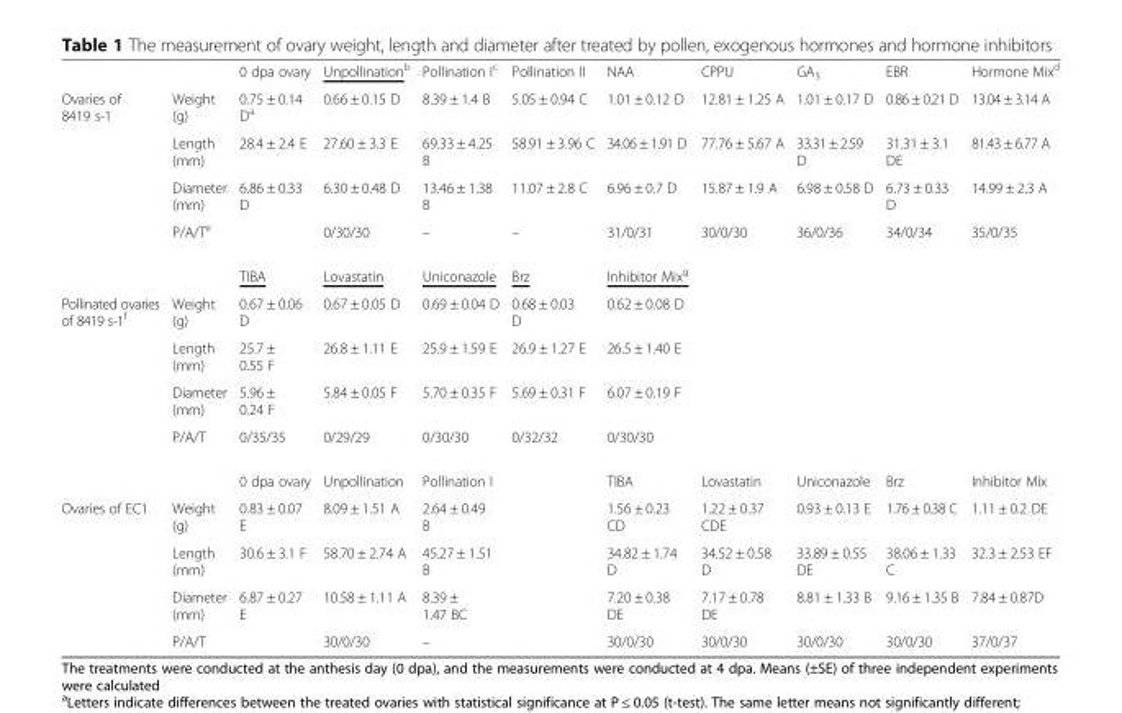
<table><thead><tr><td></td><td></td><td>0 dpa ovary</td><td>Unpollination<sup>b</sup></td><td>Pollination I<sup>c</sup></td><td>Pollination II</td><td>NAA</td><td>CPPU</td><td>GA<sub>3</sub></td><td>EBR</td><td>Hormone Mix<sup>d</sup></td></tr></thead><tbody><tr><td rowspan="5">Ovaries of 8419 s-1</td><td>Weight (g)</td><td>0.75 ± 0.14 D<sup>a</sup></td><td>0.66 ± 0.15 D</td><td>8.39 ± 1.4 B</td><td>5.05 ± 0.94 C</td><td>1.01 ± 0.12 D</td><td>12.81 ± 1.25 A</td><td>1.01 ± 0.17 D</td><td>0.86 ± 0.21 D</td><td>13.04 ± 3.14 A</td></tr><tr><td>Length (mm)</td><td>28.4 ± 2.4 E</td><td>27.60 ± 3.3 E</td><td>69.33 ± 4.25 B</td><td>58.91 ± 3.96 C</td><td>34.06 ± 1.91 D</td><td>77.76 ± 5.67 A</td><td>33.31 ± 2.59 D</td><td>31.31 ± 3.1 DE</td><td>81.43 ± 6.77 A</td></tr><tr><td>Diameter (mm)</td><td>6.86 ± 0.33 D</td><td>6.30 ± 0.48 D</td><td>13.46 ± 1.38 B</td><td>11.07 ± 2.8 C</td><td>6.96 ± 0.7 D</td><td>15.87 ± 1.9 A</td><td>6.98 ± 0.58 D</td><td>6.73 ± 0.33 D</td><td>14.99 ± 2.3 A</td></tr><tr><td>P/A/T<sup>e</sup></td><td></td><td>0/30/30</td><td>–</td><td>–</td><td>31/0/31</td><td>30/0/30</td><td>36/0/36</td><td>34/0/34</td><td>35/0/35</td></tr><tr><td></td><td>TIBA</td><td>Lovastatin</td><td>Uniconazole</td><td>Brz</td><td>Inhibitor Mix<sup>g</sup></td><td></td><td></td><td></td><td></td></tr><tr><td rowspan="5">Pollinated ovaries of 8419 s-1<sup>f</sup></td><td>Weight (g)</td><td>0.67 ± 0.06 D</td><td>0.67 ± 0.05 D</td><td>0.69 ± 0.04 D</td><td>0.68 ± 0.03 D</td><td>0.62 ± 0.08 D</td><td></td><td></td><td></td><td></td></tr><tr><td>Length (mm)</td><td>25.7 ± 0.55 F</td><td>26.8 ± 1.11 E</td><td>25.9 ± 1.59 E</td><td>26.9 ± 1.27 E</td><td>26.5 ± 1.40 E</td><td></td><td></td><td></td><td></td></tr><tr><td>Diameter (mm)</td><td>5.96 ± 0.24 F</td><td>5.84 ± 0.05 F</td><td>5.70 ± 0.35 F</td><td>5.69 ± 0.31 F</td><td>6.07 ± 0.19 F</td><td></td><td></td><td></td><td></td></tr><tr><td>P/A/T</td><td>0/35/35</td><td>0/29/29</td><td>0/30/30</td><td>0/32/32</td><td>0/30/30</td><td></td><td></td><td></td><td></td></tr><tr><td></td><td>0 dpa ovary</td><td>Unpollination</td><td>Pollination I</td><td></td><td>TIBA</td><td>Lovastatin</td><td>Uniconazole</td><td>Brz</td><td>Inhibitor Mix</td></tr><tr><td rowspan="4">Ovaries of EC1</td><td>Weight (g)</td><td>0.83 ± 0.07 E</td><td>8.09 ± 1.51 A</td><td>2.64 ± 0.49 B</td><td></td><td>1.56 ± 0.23 CD</td><td>1.22 ± 0.37 CDE</td><td>0.93 ± 0.13 E</td><td>1.76 ± 0.38 C</td><td>1.11 ± 0.2 DE</td></tr><tr><td>Length (mm)</td><td>30.6 ± 3.1 F</td><td>58.70 ± 2.74 A</td><td>45.27 ± 1.51 B</td><td></td><td>34.82 ± 1.74 D</td><td>34.52 ± 0.58 D</td><td>33.89 ± 0.55 DE</td><td>38.06 ± 1.33 C</td><td>32.3 ± 2.53 EF</td></tr><tr><td>Diameter (mm)</td><td>6.87 ± 0.27 E</td><td>10.58 ± 1.11 A</td><td>8.39 ± 1.47 BC</td><td></td><td>7.20 ± 0.38 DE</td><td>7.17 ± 0.78 DE</td><td>8.81 ± 1.33 B</td><td>9.16 ± 1.35 B</td><td>7.84 ± 0.87D</td></tr><tr><td>P/A/T</td><td></td><td>30/0/30</td><td>–</td><td></td><td>30/0/30</td><td>30/0/30</td><td>30/0/30</td><td>30/0/30</td><td>37/0/37</td></tr></tbody></table>